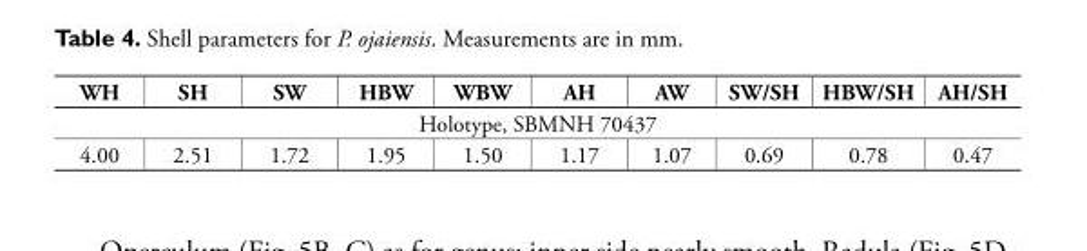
<table><thead><tr><td>WH</td><td>SH</td><td>SW</td><td>HBW</td><td>WBW</td><td>AH</td><td>AW</td><td>SW/SH</td><td>HBW/SH</td><td>AH/SH</td></tr></thead><tbody><tr><td colspan="10">Holotype, SBMNH 70437</td></tr><tr><td>4.00</td><td>2.51</td><td>1.72</td><td>1.95</td><td>1.50</td><td>1.17</td><td>1.07</td><td>0.69</td><td>0.78</td><td>0.47</td></tr></tbody></table>